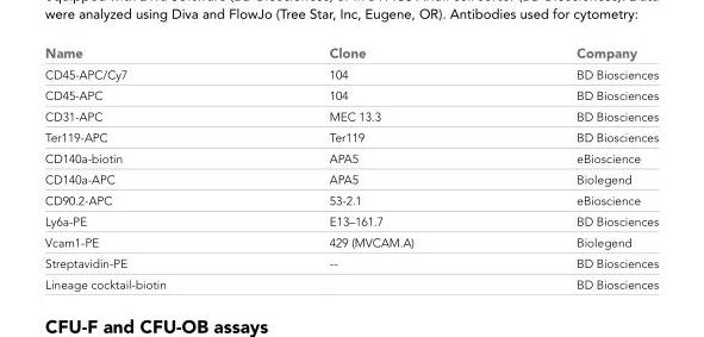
<table><thead><tr><td>Name</td><td>Clone</td><td>Company</td></tr></thead><tbody><tr><td>CD45-APC/Cy7</td><td>104</td><td>BD Biosciences</td></tr><tr><td>CD45-APC</td><td>104</td><td>BD Biosciences</td></tr><tr><td>CD31-APC</td><td>MEC 13.3</td><td>BD Biosciences</td></tr><tr><td>Ter119-APC</td><td>Ter119</td><td>BD Biosciences</td></tr><tr><td>CD140a-biotin</td><td>APA5</td><td>eBioscience</td></tr><tr><td>CD140a-APC</td><td>APA5</td><td>Biolegend</td></tr><tr><td>CD90.2-APC</td><td>53-2.1</td><td>eBioscience</td></tr><tr><td>Ly6a-PE</td><td>E13–161.7</td><td>BD Biosciences</td></tr><tr><td>Vcam1-PE</td><td>429 (MVCAM.A)</td><td>Biolegend</td></tr><tr><td>Streptavidin-PE</td><td>--</td><td>BD Biosciences</td></tr><tr><td>Lineage cocktail-biotin</td><td></td><td>BD Biosciences</td></tr></tbody></table>